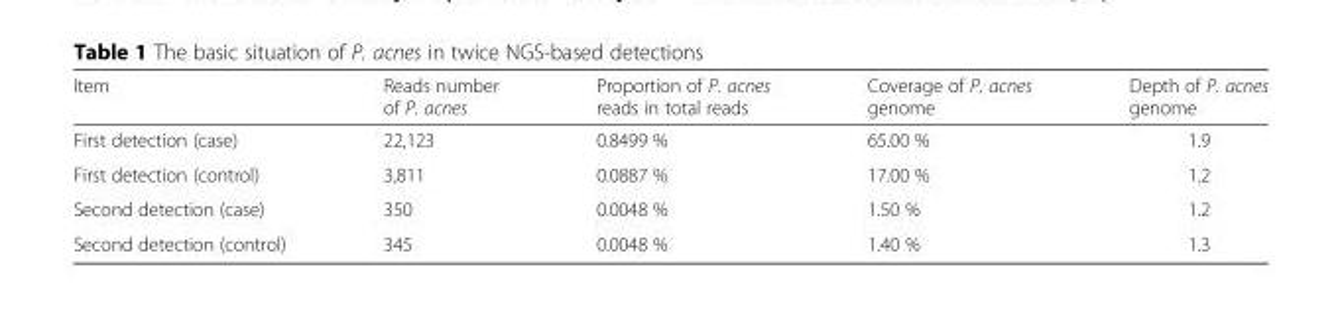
<table><thead><tr><td>Item</td><td>Reads number of P. acnes</td><td>Proportion of P. acnes reads in total reads</td><td>Coverage of P. acnes genome</td><td>Depth of P. acnes genome</td></tr></thead><tbody><tr><td>First detection (case)</td><td>22,123</td><td>0.8499 %</td><td>65.00 %</td><td>1.9</td></tr><tr><td>First detection (control)</td><td>3,811</td><td>0.0887 %</td><td>17.00 %</td><td>1.2</td></tr><tr><td>Second detection (case)</td><td>350</td><td>0.0048 %</td><td>1.50 %</td><td>1.2</td></tr><tr><td>Second detection (control)</td><td>345</td><td>0.0048 %</td><td>1.40 %</td><td>1.3</td></tr></tbody></table>